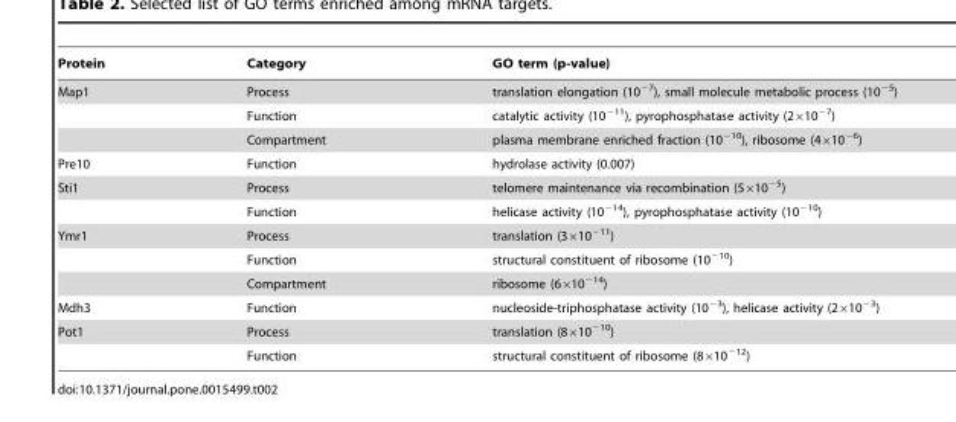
<table><thead><tr><td>Protein</td><td>Category</td><td>GO term (p-value)</td></tr></thead><tbody><tr><td rowspan="3">Map1</td><td>Process</td><td>translation elongation (10<sup>−7</sup>), small molecule metabolic process (10<sup>−5</sup>)</td></tr><tr><td>Function</td><td>catalytic activity (10<sup>−11</sup>), pyrophosphatase activity (2×10<sup>−7</sup>)</td></tr><tr><td>Compartment</td><td>plasma membrane enriched fraction (10<sup>−10</sup>), ribosome (4×10<sup>−6</sup>)</td></tr><tr><td>Pre10</td><td>Function</td><td>hydrolase activity (0.007)</td></tr><tr><td rowspan="2">Sti1</td><td>Process</td><td>telomere maintenance via recombination (5×10<sup>−5</sup>)</td></tr><tr><td>Function</td><td>helicase activity (10<sup>−14</sup>), pyrophosphatase activity (10<sup>−10</sup>)</td></tr><tr><td rowspan="3">Ymr1</td><td>Process</td><td>translation (3×10<sup>−11</sup>)</td></tr><tr><td>Function</td><td>structural constituent of ribosome (10<sup>−10</sup>)</td></tr><tr><td>Compartment</td><td>ribosome (6×10<sup>−14</sup>)</td></tr><tr><td>Mdh3</td><td>Function</td><td>nucleoside-triphosphatase activity (10<sup>−3</sup>), helicase activity (2×10<sup>−3</sup>)</td></tr><tr><td rowspan="2">Pot1</td><td>Process</td><td>translation (8×10<sup>−10</sup>)</td></tr><tr><td>Function</td><td>structural constituent of ribosome (8×10<sup>−12</sup>)</td></tr></tbody></table>